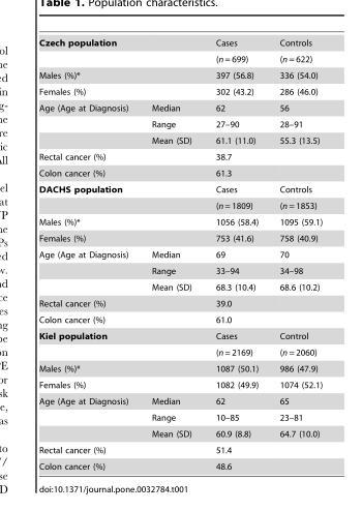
<table><tbody><tr><td rowspan="2">Czech population</td><td></td><td>Cases</td><td>Controls</td></tr><tr><td></td><td>(n = 699)</td><td>(n = 622)</td></tr><tr><td>Males (%)*</td><td></td><td>397 (56.8)</td><td>336 (54.0)</td></tr><tr><td>Females (%)</td><td></td><td>302 (43.2)</td><td>286 (46.0)</td></tr><tr><td rowspan="3">Age (Age at Diagnosis)</td><td>Median</td><td>62</td><td>56</td></tr><tr><td>Range</td><td>27–90</td><td>28–91</td></tr><tr><td>Mean (SD)</td><td>61.1 (11.0)</td><td>55.3 (13.5)</td></tr><tr><td>Rectal cancer (%)</td><td></td><td>38.7</td><td></td></tr><tr><td>Colon cancer (%)</td><td></td><td>61.3</td><td></td></tr><tr><td rowspan="2">DACHS population</td><td></td><td>Cases</td><td>Controls</td></tr><tr><td></td><td>(n = 1809)</td><td>(n = 1853)</td></tr><tr><td>Males (%)*</td><td></td><td>1056 (58.4)</td><td>1095 (59.1)</td></tr><tr><td>Females (%)</td><td></td><td>753 (41.6)</td><td>758 (40.9)</td></tr><tr><td rowspan="3">Age (Age at Diagnosis)</td><td>Median</td><td>69</td><td>70</td></tr><tr><td>Range</td><td>33–94</td><td>34–98</td></tr><tr><td>Mean (SD)</td><td>68.3 (10.4)</td><td>68.6 (10.2)</td></tr><tr><td>Rectal cancer (%)</td><td></td><td>39.0</td><td></td></tr><tr><td>Colon cancer (%)</td><td></td><td>61.0</td><td></td></tr><tr><td rowspan="2">Kiel population</td><td></td><td>Cases</td><td>Control</td></tr><tr><td></td><td>(n = 2169)</td><td>(n = 2060)</td></tr><tr><td>Males (%)*</td><td></td><td>1087 (50.1)</td><td>986 (47.9)</td></tr><tr><td>Females (%)</td><td></td><td>1082 (49.9)</td><td>1074 (52.1)</td></tr><tr><td rowspan="3">Age (Age at Diagnosis)</td><td>Median</td><td>62</td><td>65</td></tr><tr><td>Range</td><td>10–85</td><td>23–81</td></tr><tr><td>Mean (SD)</td><td>60.9 (8.8)</td><td>64.7 (10.0)</td></tr><tr><td>Rectal cancer (%)</td><td></td><td>51.4</td><td></td></tr><tr><td>Colon cancer (%)</td><td></td><td>48.6</td><td></td></tr></tbody></table>